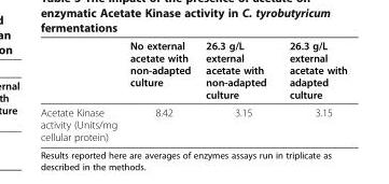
<table><thead><tr><td></td><td>No external acetate with non-adapted culture</td><td>26.3 g/L external acetate with non-adapted culture</td><td>26.3 g/L external acetate with adapted culture</td></tr></thead><tbody><tr><td>Acetate Kinase activity (Units/mg cellular protein)</td><td>8.42</td><td>3.15</td><td>3.15</td></tr></tbody></table>